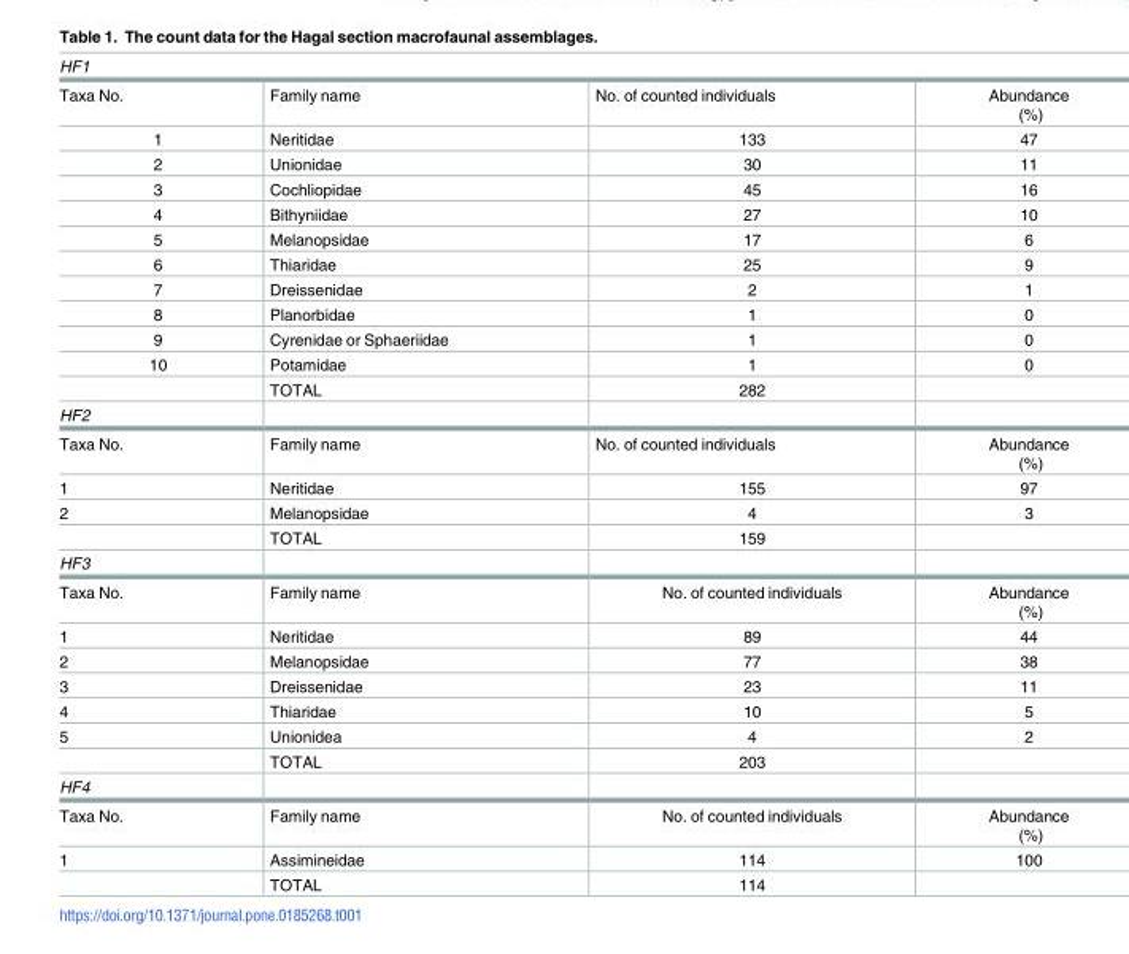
<table><tbody><tr><td colspan="4">HF1</td></tr><tr><td>Taxa No.</td><td>Family name</td><td>No. of counted individuals</td><td>Abundance (%)</td></tr><tr><td>1</td><td>Neritidae</td><td>133</td><td>47</td></tr><tr><td>2</td><td>Unionidae</td><td>30</td><td>11</td></tr><tr><td>3</td><td>Cochliopidae</td><td>45</td><td>16</td></tr><tr><td>4</td><td>Bithyniidae</td><td>27</td><td>10</td></tr><tr><td>5</td><td>Melanopsidae</td><td>17</td><td>6</td></tr><tr><td>6</td><td>Thiaridae</td><td>25</td><td>9</td></tr><tr><td>7</td><td>Dreissenidae</td><td>2</td><td>1</td></tr><tr><td>8</td><td>Planorbidae</td><td>1</td><td>0</td></tr><tr><td>9</td><td>Cyrenidae or Sphaeriidae</td><td>1</td><td>0</td></tr><tr><td rowspan="2">10</td><td>Potamidae</td><td>1</td><td>0</td></tr><tr><td>TOTAL</td><td>282</td><td></td></tr><tr><td colspan="4">HF2</td></tr><tr><td>Taxa No.</td><td>Family name</td><td>No. of counted individuals</td><td>Abundance (%)</td></tr><tr><td>1</td><td>Neritidae</td><td>155</td><td>97</td></tr><tr><td rowspan="2">2</td><td>Melanopsidae</td><td>4</td><td>3</td></tr><tr><td>TOTAL</td><td>159</td><td></td></tr><tr><td colspan="4">HF3</td></tr><tr><td>Taxa No.</td><td>Family name</td><td>No. of counted individuals</td><td>Abundance (%)</td></tr><tr><td>1</td><td>Neritidae</td><td>89</td><td>44</td></tr><tr><td>2</td><td>Melanopsidae</td><td>77</td><td>38</td></tr><tr><td>3</td><td>Dreissenidae</td><td>23</td><td>11</td></tr><tr><td>4</td><td>Thiaridae</td><td>10</td><td>5</td></tr><tr><td rowspan="2">5</td><td>Unionidea</td><td>4</td><td>2</td></tr><tr><td>TOTAL</td><td>203</td><td></td></tr><tr><td colspan="4">HF4</td></tr><tr><td>Taxa No.</td><td>Family name</td><td>No. of counted individuals</td><td>Abundance (%)</td></tr><tr><td rowspan="2">1</td><td>Assimineidae</td><td>114</td><td>100</td></tr><tr><td>TOTAL</td><td>114</td><td></td></tr></tbody></table>